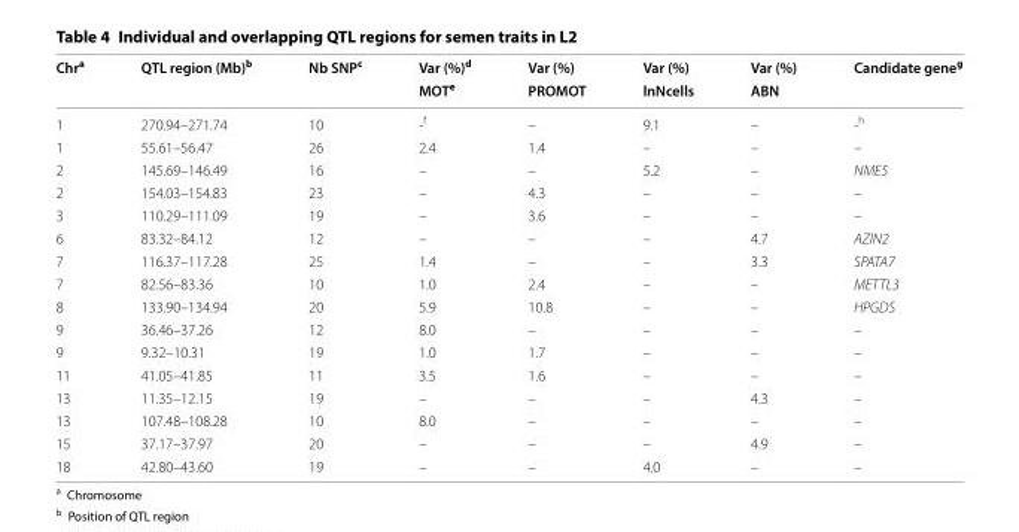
<table><thead><tr><td rowspan="2">Chr<sup>a</sup></td><td rowspan="2">QTL region (Mb)<sup>b</sup></td><td rowspan="2">Nb SNP<sup>c</sup></td><td rowspan="2">Var (%)<sup>d</sup> MOT<sup>e</sup></td><td rowspan="2">Var (%) PROMOT</td><td rowspan="2">Var (%) lnNcells</td><td rowspan="2">Var (%) ABN</td><td rowspan="2">Candidate gene<sup>g</sup></td></tr><tr></tr></thead><tbody><tr><td>1</td><td>270.94–271.74</td><td>10</td><td>-<sup>f</sup></td><td>–</td><td>9.1</td><td>–</td><td>-<sup>h</sup></td></tr><tr><td>1</td><td>55.61–56.47</td><td>26</td><td>2.4</td><td>1.4</td><td>–</td><td>–</td><td>–</td></tr><tr><td>2</td><td>145.69–146.49</td><td>16</td><td>–</td><td>–</td><td>5.2</td><td>–</td><td>NME5</td></tr><tr><td>2</td><td>154.03–154.83</td><td>23</td><td>–</td><td>4.3</td><td>–</td><td>–</td><td>–</td></tr><tr><td>3</td><td>110.29–111.09</td><td>19</td><td>–</td><td>3.6</td><td>–</td><td>–</td><td>–</td></tr><tr><td>6</td><td>83.32–84.12</td><td>12</td><td>–</td><td>–</td><td>–</td><td>4.7</td><td>AZIN2</td></tr><tr><td>7</td><td>116.37–117.28</td><td>25</td><td>1.4</td><td>–</td><td>–</td><td>3.3</td><td>SPATA7</td></tr><tr><td>7</td><td>82.56–83.36</td><td>10</td><td>1.0</td><td>2.4</td><td>–</td><td>–</td><td>METTL3</td></tr><tr><td>8</td><td>133.90–134.94</td><td>20</td><td>5.9</td><td>10.8</td><td>–</td><td>–</td><td>HPGDS</td></tr><tr><td>9</td><td>36.46–37.26</td><td>12</td><td>8.0</td><td>–</td><td>–</td><td>–</td><td>–</td></tr><tr><td>9</td><td>9.32–10.31</td><td>19</td><td>1.0</td><td>1.7</td><td>–</td><td>–</td><td>–</td></tr><tr><td>11</td><td>41.05–41.85</td><td>11</td><td>3.5</td><td>1.6</td><td>–</td><td>–</td><td>–</td></tr><tr><td>13</td><td>11.35–12.15</td><td>19</td><td>–</td><td>–</td><td>–</td><td>4.3</td><td>–</td></tr><tr><td>13</td><td>107.48–108.28</td><td>10</td><td>8.0</td><td>–</td><td>–</td><td>–</td><td>–</td></tr><tr><td>15</td><td>37.17–37.97</td><td>20</td><td>–</td><td>–</td><td>–</td><td>4.9</td><td>–</td></tr><tr><td>18</td><td>42.80–43.60</td><td>19</td><td>–</td><td>–</td><td>4.0</td><td>–</td><td>–</td></tr></tbody></table>